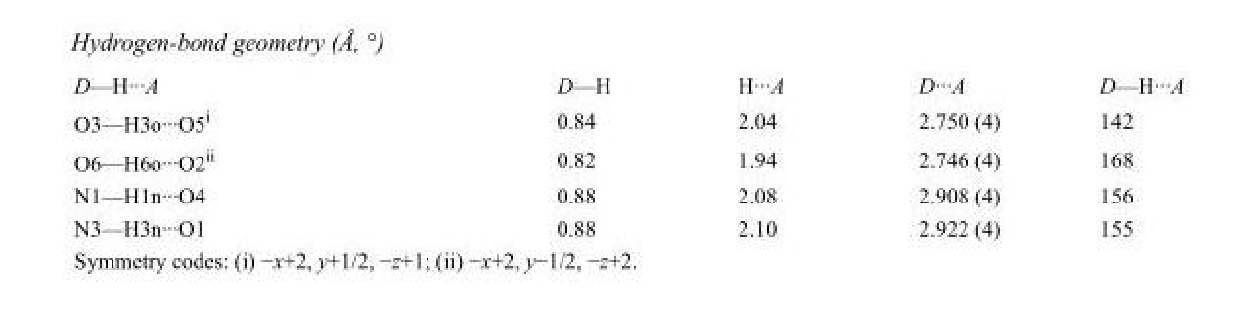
<table><tbody><tr><td>D—H···A</td><td>D—H</td><td>H···A</td><td>D···A</td><td>D—H···A</td></tr><tr><td>O3—H3o···O5<sup>i</sup></td><td>0.84</td><td>2.04</td><td>2.750 (4)</td><td>142</td></tr><tr><td>O6—H6o···O2<sup>ii</sup></td><td>0.82</td><td>1.94</td><td>2.746 (4)</td><td>168</td></tr><tr><td>N1—H1n···O4</td><td>0.88</td><td>2.08</td><td>2.908 (4)</td><td>156</td></tr><tr><td>N3—H3n···O1</td><td>0.88</td><td>2.10</td><td>2.922 (4)</td><td>155</td></tr></tbody></table>